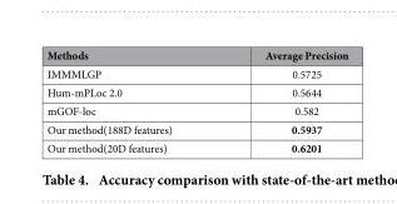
<table><thead><tr><td>Methods</td><td>Average Precision</td></tr></thead><tbody><tr><td>IMMMLGP</td><td>0.5725</td></tr><tr><td>Hum-mPLoc 2.0</td><td>0.5644</td></tr><tr><td>mGOF-loc</td><td>0.582</td></tr><tr><td>Our method(188D features)</td><td>0.5937</td></tr><tr><td>Our method(20D features)</td><td>0.6201</td></tr></tbody></table>